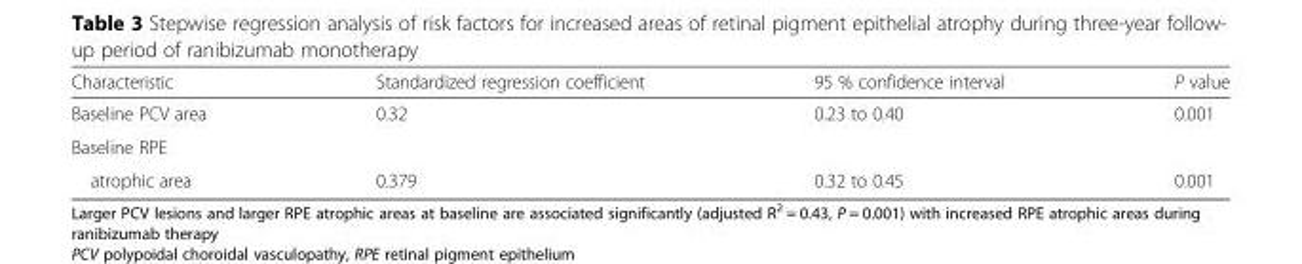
<table><thead><tr><td>Characteristic</td><td>Standardized regression coefficient</td><td>95 % confidence interval</td><td>P value</td></tr></thead><tbody><tr><td>Baseline PCV area</td><td>0.32</td><td>0.23 to 0.40</td><td>0.001</td></tr><tr><td colspan="4">Baseline RPE</td></tr><tr><td>atrophic area</td><td>0.379</td><td>0.32 to 0.45</td><td>0.001</td></tr></tbody></table>